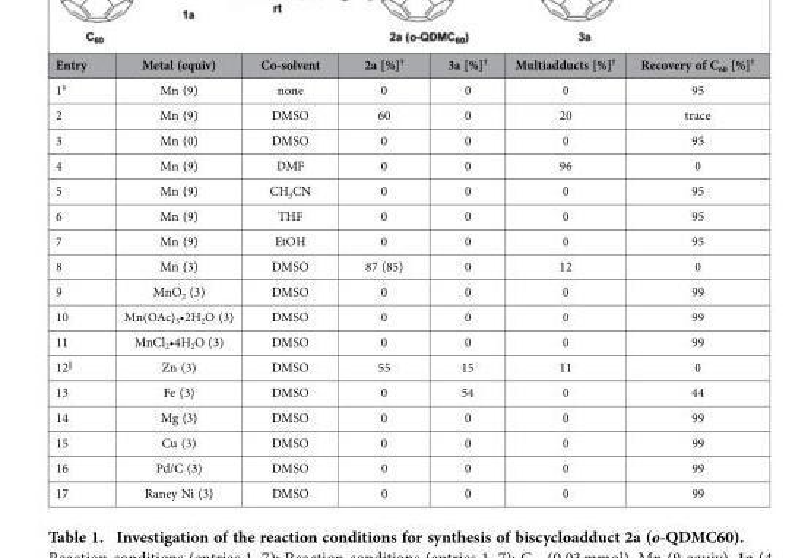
<table><thead><tr><td>Entry</td><td>Metal (equiv)</td><td>Co-solvent</td><td>2a [%]†</td><td>3a [%]†</td><td>Multiadducts [%]†</td><td>Recovery of C<sub>60</sub> [%]†</td></tr></thead><tbody><tr><td>1‡</td><td>Mn (9)</td><td>none</td><td>0</td><td>0</td><td>0</td><td>95</td></tr><tr><td>2</td><td>Mn (9)</td><td>DMSO</td><td>60</td><td>0</td><td>20</td><td>trace</td></tr><tr><td>3</td><td>Mn (0)</td><td>DMSO</td><td>0</td><td>0</td><td>0</td><td>95</td></tr><tr><td>4</td><td>Mn (9)</td><td>DMF</td><td>0</td><td>0</td><td>96</td><td>0</td></tr><tr><td>5</td><td>Mn (9)</td><td>CH<sub>3</sub>CN</td><td>0</td><td>0</td><td>0</td><td>95</td></tr><tr><td>6</td><td>Mn (9)</td><td>THF</td><td>0</td><td>0</td><td>0</td><td>95</td></tr><tr><td>7</td><td>Mn (9)</td><td>EtOH</td><td>0</td><td>0</td><td>0</td><td>95</td></tr><tr><td>8</td><td>Mn (3)</td><td>DMSO</td><td>87 (85)</td><td>0</td><td>12</td><td>0</td></tr><tr><td>9</td><td>MnO<sub>2</sub> (3)</td><td>DMSO</td><td>0</td><td>0</td><td>0</td><td>99</td></tr><tr><td>10</td><td>Mn(OAc)<sub>3</sub>•2H<sub>2</sub>O (3)</td><td>DMSO</td><td>0</td><td>0</td><td>0</td><td>99</td></tr><tr><td>11</td><td>MnCl<sub>2</sub>•4H<sub>2</sub>O (3)</td><td>DMSO</td><td>0</td><td>0</td><td>0</td><td>99</td></tr><tr><td>12‖</td><td>Zn (3)</td><td>DMSO</td><td>55</td><td>15</td><td>11</td><td>0</td></tr><tr><td>13</td><td>Fe (3)</td><td>DMSO</td><td>0</td><td>54</td><td>0</td><td>44</td></tr><tr><td>14</td><td>Mg (3)</td><td>DMSO</td><td>0</td><td>0</td><td>0</td><td>99</td></tr><tr><td>15</td><td>Cu (3)</td><td>DMSO</td><td>0</td><td>0</td><td>0</td><td>99</td></tr><tr><td>16</td><td>Pd/C (3)</td><td>DMSO</td><td>0</td><td>0</td><td>0</td><td>99</td></tr><tr><td>17</td><td>Raney Ni (3)</td><td>DMSO</td><td>0</td><td>0</td><td>0</td><td>99</td></tr></tbody></table>